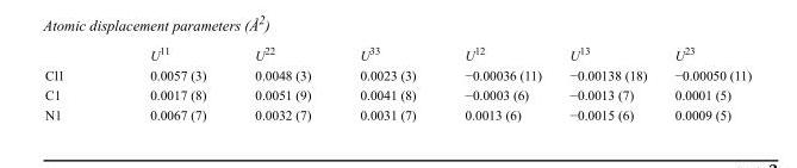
<table><thead><tr><td></td><td>U<sup>11</sup></td><td>U<sup>22</sup></td><td>U<sup>33</sup></td><td>U<sup>12</sup></td><td>U<sup>13</sup></td><td>U<sup>23</sup></td></tr></thead><tbody><tr><td>Cl1</td><td>0.0057 (3)</td><td>0.0048 (3)</td><td>0.0023 (3)</td><td>−0.00036 (11)</td><td>−0.00138 (18)</td><td>−0.00050 (11)</td></tr><tr><td>C1</td><td>0.0017 (8)</td><td>0.0051 (9)</td><td>0.0041 (8)</td><td>−0.0003 (6)</td><td>−0.0013 (7)</td><td>0.0001 (5)</td></tr><tr><td>N1</td><td>0.0067 (7)</td><td>0.0032 (7)</td><td>0.0031 (7)</td><td>0.0013 (6)</td><td>−0.0015 (6)</td><td>0.0009 (5)</td></tr></tbody></table>